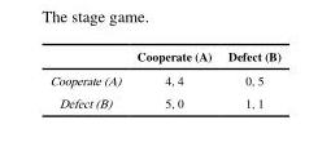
<table><thead><tr><td></td><td>Cooperate (A)</td><td>Defect (B)</td></tr></thead><tbody><tr><td>Cooperate (A)</td><td>4, 4</td><td>0, 5</td></tr><tr><td>Defect (B)</td><td>5, 0</td><td>1, 1</td></tr></tbody></table>